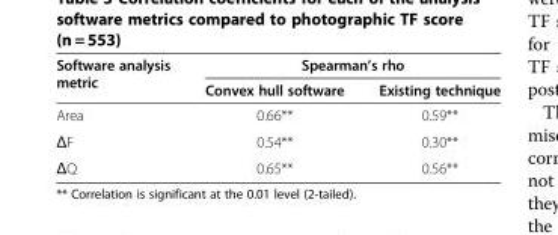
<table><thead><tr><td rowspan="2">Software analysis metric</td><td colspan="2">Spearman’s rho</td></tr><tr><td>Convex hull software</td><td>Existing technique</td></tr></thead><tbody><tr><td>Area</td><td>0.66**</td><td>0.59**</td></tr><tr><td>ΔF</td><td>0.54**</td><td>0.30**</td></tr><tr><td>ΔQ</td><td>0.65**</td><td>0.56**</td></tr></tbody></table>